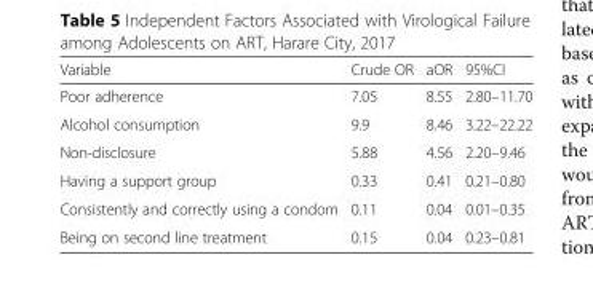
<table><thead><tr><td>Variable</td><td>Crude OR</td><td>aOR</td><td>95%CI</td></tr></thead><tbody><tr><td>Poor adherence</td><td>7.05</td><td>8.55</td><td>2.80–11.70</td></tr><tr><td>Alcohol consumption</td><td>9.9</td><td>8.46</td><td>3.22–22.22</td></tr><tr><td>Non-disclosure</td><td>5.88</td><td>4.56</td><td>2.20–9.46</td></tr><tr><td>Having a support group</td><td>0.33</td><td>0.41</td><td>0.21–0.80</td></tr><tr><td>Consistently and correctly using a condom</td><td>0.11</td><td>0.04</td><td>0.01–0.35</td></tr><tr><td>Being on second line treatment</td><td>0.15</td><td>0.04</td><td>0.23–0.81</td></tr></tbody></table>